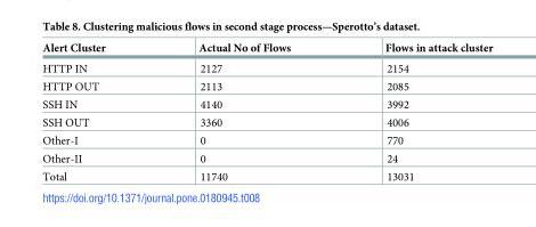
<table><thead><tr><td>Alert Cluster</td><td>Actual No of Flows</td><td>Flows in attack cluster</td></tr></thead><tbody><tr><td>HTTP IN</td><td>2127</td><td>2154</td></tr><tr><td>HTTP OUT</td><td>2113</td><td>2085</td></tr><tr><td>SSH IN</td><td>4140</td><td>3992</td></tr><tr><td>SSH OUT</td><td>3360</td><td>4006</td></tr><tr><td>Other-I</td><td>0</td><td>770</td></tr><tr><td>Other-II</td><td>0</td><td>24</td></tr><tr><td>Total</td><td>11740</td><td>13031</td></tr></tbody></table>